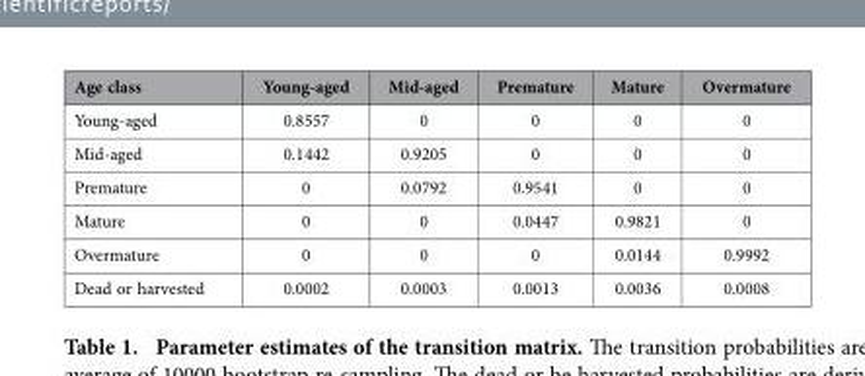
<table><thead><tr><td>Age class</td><td>Young-aged</td><td>Mid-aged</td><td>Premature</td><td>Mature</td><td>Overmature</td></tr></thead><tbody><tr><td>Young-aged</td><td>0.8557</td><td>0</td><td>0</td><td>0</td><td>0</td></tr><tr><td>Mid-aged</td><td>0.1442</td><td>0.9205</td><td>0</td><td>0</td><td>0</td></tr><tr><td>Premature</td><td>0</td><td>0.0792</td><td>0.9541</td><td>0</td><td>0</td></tr><tr><td>Mature</td><td>0</td><td>0</td><td>0.0447</td><td>0.9821</td><td>0</td></tr><tr><td>Overmature</td><td>0</td><td>0</td><td>0</td><td>0.0144</td><td>0.9992</td></tr><tr><td>Dead or harvested</td><td>0.0002</td><td>0.0003</td><td>0.0013</td><td>0.0036</td><td>0.0008</td></tr></tbody></table>